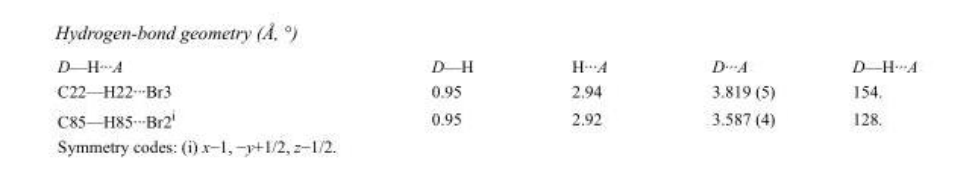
<table><tbody><tr><td>D—H···A</td><td>D—H</td><td>H···A</td><td>D···A</td><td>D—H···A</td></tr><tr><td>C22—H22···Br3</td><td>0.95</td><td>2.94</td><td>3.819 (5)</td><td>154.</td></tr><tr><td>C85—H85···Br2<sup>i</sup></td><td>0.95</td><td>2.92</td><td>3.587 (4)</td><td>128.</td></tr></tbody></table>